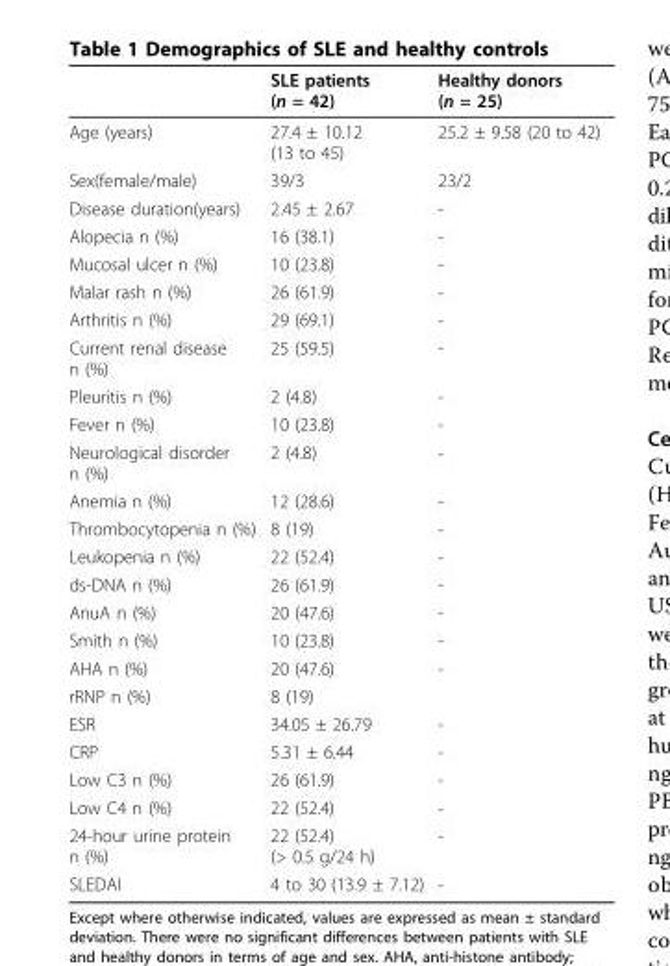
<table><thead><tr><td></td><td>SLE patients (n = 42)</td><td>Healthy donors (n = 25)</td></tr></thead><tbody><tr><td>Age (years)</td><td>27.4 ± 10.12 (13 to 45)</td><td>25.2 ± 9.58 (20 to 42)</td></tr><tr><td>Sex(female/male)</td><td>39/3</td><td>23/2</td></tr><tr><td>Disease duration(years)</td><td>2.45 ± 2.67</td><td>-</td></tr><tr><td>Alopecia n (%)</td><td>16 (38.1)</td><td>-</td></tr><tr><td>Mucosal ulcer n (%)</td><td>10 (23.8)</td><td>-</td></tr><tr><td>Malar rash n (%)</td><td>26 (61.9)</td><td>-</td></tr><tr><td>Arthritis n (%)</td><td>29 (69.1)</td><td>-</td></tr><tr><td>Current renal disease n (%)</td><td>25 (59.5)</td><td>-</td></tr><tr><td>Pleuritis n (%)</td><td>2 (4.8)</td><td>-</td></tr><tr><td>Fever n (%)</td><td>10 (23.8)</td><td>-</td></tr><tr><td>Neurological disorder n (%)</td><td>2 (4.8)</td><td>-</td></tr><tr><td>Anemia n (%)</td><td>12 (28.6)</td><td>-</td></tr><tr><td>Thrombocytopenia n (%)</td><td>8 (19)</td><td>-</td></tr><tr><td>Leukopenia n (%)</td><td>22 (52.4)</td><td>-</td></tr><tr><td>ds-DNA n (%)</td><td>26 (61.9)</td><td>-</td></tr><tr><td>AnuA n (%)</td><td>20 (47.6)</td><td>-</td></tr><tr><td>Smith n (%)</td><td>10 (23.8)</td><td>-</td></tr><tr><td>AHA n (%)</td><td>20 (47.6)</td><td>-</td></tr><tr><td>rRNP n (%)</td><td>8 (19)</td><td></td></tr><tr><td>ESR</td><td>34.05 ± 26.79</td><td>-</td></tr><tr><td>CRP</td><td>5.31 ± 6.44</td><td>-</td></tr><tr><td>Low C3 n (%)</td><td>26 (61.9)</td><td>-</td></tr><tr><td>Low C4 n (%)</td><td>22 (52.4)</td><td>-</td></tr><tr><td>24-hour urine protein n (%)</td><td>22 (52.4) (&gt; 0.5 g/24 h)</td><td>-</td></tr><tr><td>SLEDAI</td><td>4 to 30 (13.9 ± 7.12)</td><td>-</td></tr></tbody></table>